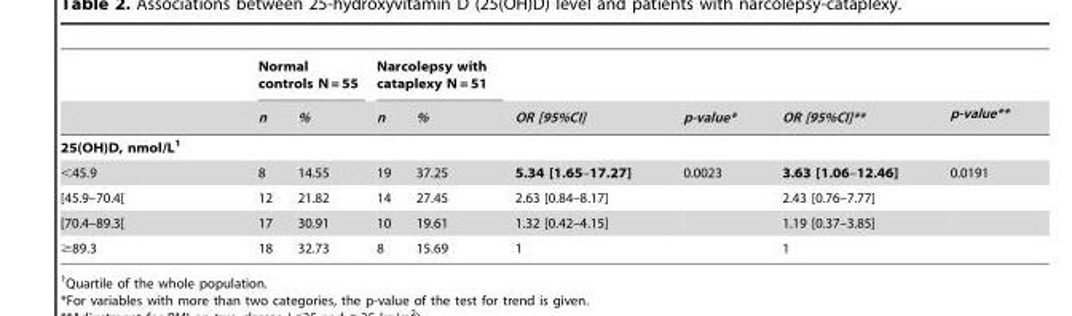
<table><thead><tr><td rowspan="2"></td><td colspan="2">Normal controls N = 55</td><td colspan="2">Narcolepsy with cataplexy N = 51</td><td rowspan="2">OR [95%CI]</td><td rowspan="2">p-value*</td><td rowspan="2">OR [95%CI]**</td><td rowspan="2">p-value**</td></tr><tr><td>n</td><td>%</td><td>n</td><td>%</td></tr></thead><tbody><tr><td colspan="9">25(OH)D, nmol/L1</td></tr><tr><td>&lt;45.9</td><td>8</td><td>14.55</td><td>19</td><td>37.25</td><td>5.34 [1.65–17.27]</td><td>0.0023</td><td>3.63 [1.06–12.46]</td><td>0.0191</td></tr><tr><td>[45.9–70.4[</td><td>12</td><td>21.82</td><td>14</td><td>27.45</td><td>2.63 [0.84–8.17]</td><td></td><td>2.43 [0.76–7.77]</td><td></td></tr><tr><td>[70.4–89.3[</td><td>17</td><td>30.91</td><td>10</td><td>19.61</td><td>1.32 [0.42–4.15]</td><td></td><td>1.19 [0.37–3.85]</td><td></td></tr><tr><td>≥89.3</td><td>18</td><td>32.73</td><td>8</td><td>15.69</td><td>1</td><td></td><td>1</td><td></td></tr></tbody></table>